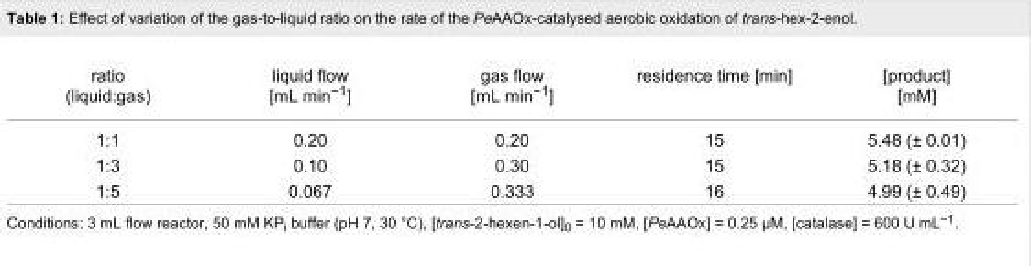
<table><tbody><tr><td>ratio (liquid:gas)</td><td>liquid flow [mL min<sup>−1</sup>]</td><td>gas flow [mL min<sup>−1</sup>]</td><td>residence time [min]</td><td>[product] [mM]</td></tr><tr><td>1:1</td><td>0.20</td><td>0.20</td><td>15</td><td>5.48 (± 0.01)</td></tr><tr><td>1:3</td><td>0.10</td><td>0.30</td><td>15</td><td>5.18 (± 0.32)</td></tr><tr><td>1:5</td><td>0.067</td><td>0.333</td><td>16</td><td>4.99 (± 0.49)</td></tr></tbody></table>